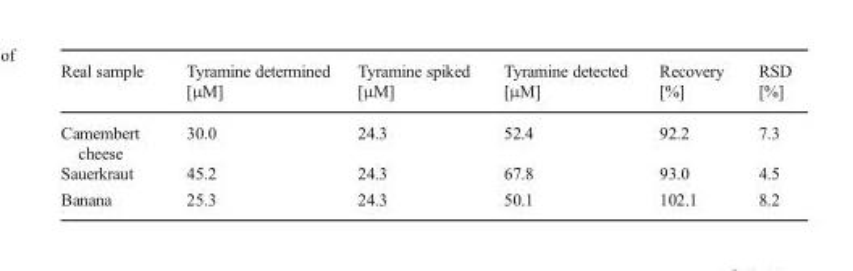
<table><thead><tr><td>Real sample</td><td>Tyramine determined [μM]</td><td>Tyramine spiked [μM]</td><td>Tyramine detected [μM]</td><td>Recovery [%]</td><td>RSD [%]</td></tr></thead><tbody><tr><td>Camembert cheese</td><td>30.0</td><td>24.3</td><td>52.4</td><td>92.2</td><td>7.3</td></tr><tr><td>Sauerkraut</td><td>45.2</td><td>24.3</td><td>67.8</td><td>93.0</td><td>4.5</td></tr><tr><td>Banana</td><td>25.3</td><td>24.3</td><td>50.1</td><td>102.1</td><td>8.2</td></tr></tbody></table>